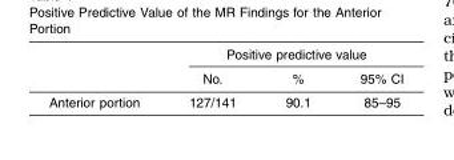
<table><thead><tr><td rowspan="2"></td><td colspan="3">Positive predictive value</td></tr><tr><td>No.</td><td>%</td><td>95% CI</td></tr></thead><tbody><tr><td>Anterior portion</td><td>127/141</td><td>90.1</td><td>85–95</td></tr></tbody></table>